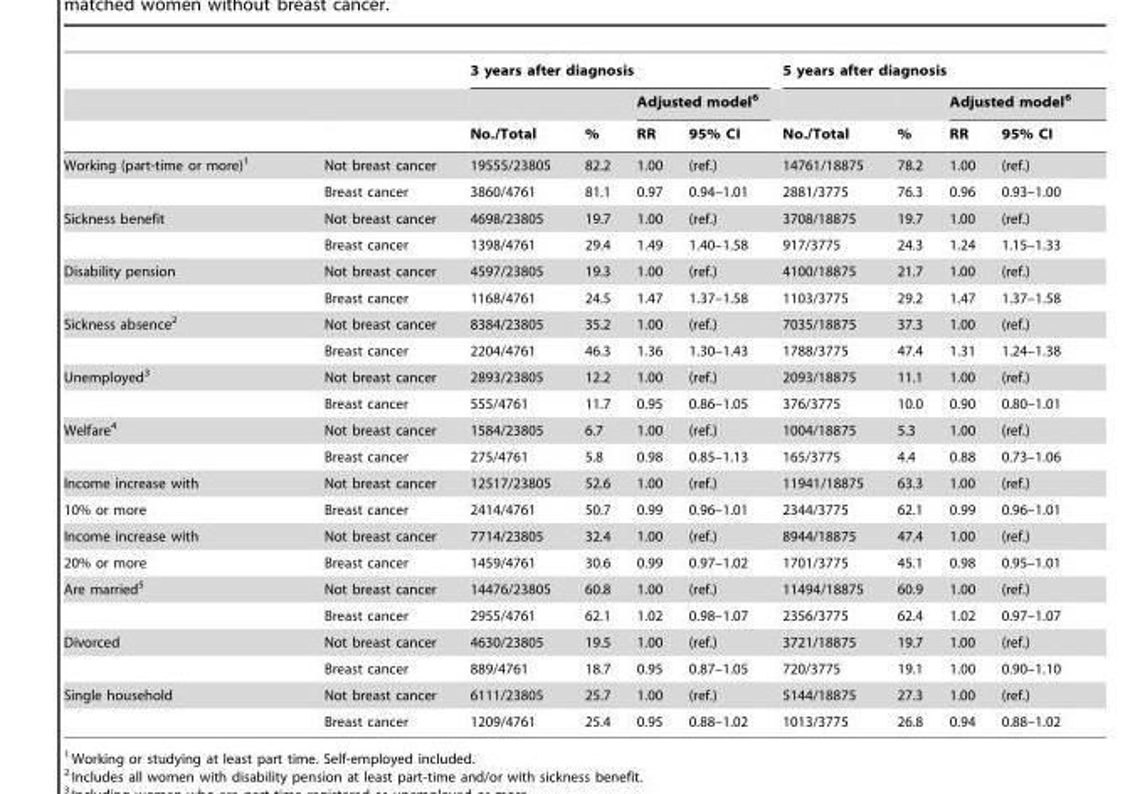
<table><thead><tr><td rowspan="3"></td><td rowspan="3"></td><td colspan="4">3 years after diagnosis</td><td colspan="4">5 years after diagnosis</td></tr><tr><td rowspan="2">No./Total</td><td rowspan="2">%</td><td colspan="2">Adjusted model<sup>6</sup></td><td rowspan="2">No./Total</td><td rowspan="2">%</td><td colspan="2">Adjusted model<sup>6</sup></td></tr><tr><td>RR</td><td>95% CI</td><td>RR</td><td>95% CI</td></tr></thead><tbody><tr><td rowspan="2">Working (part-time or more)<sup>1</sup></td><td>Not breast cancer</td><td>19555/23805</td><td>82.2</td><td>1.00</td><td>(ref.)</td><td>14761/18875</td><td>78.2</td><td>1.00</td><td>(ref.)</td></tr><tr><td>Breast cancer</td><td>3860/4761</td><td>81.1</td><td>0.97</td><td>0.94–1.01</td><td>2881/3775</td><td>76.3</td><td>0.96</td><td>0.93–1.00</td></tr><tr><td rowspan="2">Sickness benefit</td><td>Not breast cancer</td><td>4698/23805</td><td>19.7</td><td>1.00</td><td>(ref.)</td><td>3708/18875</td><td>19.7</td><td>1.00</td><td>(ref.)</td></tr><tr><td>Breast cancer</td><td>1398/4761</td><td>29.4</td><td>1.49</td><td>1.40–1.58</td><td>917/3775</td><td>24.3</td><td>1.24</td><td>1.15–1.33</td></tr><tr><td rowspan="2">Disability pension</td><td>Not breast cancer</td><td>4597/23805</td><td>19.3</td><td>1.00</td><td>(ref.)</td><td>4100/18875</td><td>21.7</td><td>1.00</td><td>(ref.)</td></tr><tr><td>Breast cancer</td><td>1168/4761</td><td>24.5</td><td>1.47</td><td>1.37–1.58</td><td>1103/3775</td><td>29.2</td><td>1.47</td><td>1.37–1.58</td></tr><tr><td rowspan="2">Sickness absence<sup>2</sup></td><td>Not breast cancer</td><td>8384/23805</td><td>35.2</td><td>1.00</td><td>(ref.)</td><td>7035/18875</td><td>37.3</td><td>1.00</td><td>(ref.)</td></tr><tr><td>Breast cancer</td><td>2204/4761</td><td>46.3</td><td>1.36</td><td>1.30–1.43</td><td>1788/3775</td><td>47.4</td><td>1.31</td><td>1.24–1.38</td></tr><tr><td rowspan="2">Unemployed<sup>3</sup></td><td>Not breast cancer</td><td>2893/23805</td><td>12.2</td><td>1.00</td><td>(ref.)</td><td>2093/18875</td><td>11.1</td><td>1.00</td><td>(ref.)</td></tr><tr><td>Breast cancer</td><td>555/4761</td><td>11.7</td><td>0.95</td><td>0.86–1.05</td><td>376/3775</td><td>10.0</td><td>0.90</td><td>0.80–1.01</td></tr><tr><td rowspan="2">Welfare<sup>4</sup></td><td>Not breast cancer</td><td>1584/23805</td><td>6.7</td><td>1.00</td><td>(ref.)</td><td>1004/18875</td><td>5.3</td><td>1.00</td><td>(ref.)</td></tr><tr><td>Breast cancer</td><td>275/4761</td><td>5.8</td><td>0.98</td><td>0.85–1.13</td><td>165/3775</td><td>4.4</td><td>0.88</td><td>0.73–1.06</td></tr><tr><td>Income increase with</td><td>Not breast cancer</td><td>12517/23805</td><td>52.6</td><td>1.00</td><td>(ref.)</td><td>11941/18875</td><td>63.3</td><td>1.00</td><td>(ref.)</td></tr><tr><td>10% or more</td><td>Breast cancer</td><td>2414/4761</td><td>50.7</td><td>0.99</td><td>0.96–1.01</td><td>2344/3775</td><td>62.1</td><td>0.99</td><td>0.96–1.01</td></tr><tr><td>Income increase with</td><td>Not breast cancer</td><td>7714/23805</td><td>32.4</td><td>1.00</td><td>(ref.)</td><td>8944/18875</td><td>47.4</td><td>1.00</td><td>(ref.)</td></tr><tr><td>20% or more</td><td>Breast cancer</td><td>1459/4761</td><td>30.6</td><td>0.99</td><td>0.97–1.02</td><td>1701/3775</td><td>45.1</td><td>0.98</td><td>0.95–1.01</td></tr><tr><td rowspan="2">Are married<sup>5</sup></td><td>Not breast cancer</td><td>14476/23805</td><td>60.8</td><td>1.00</td><td>(ref.)</td><td>11494/18875</td><td>60.9</td><td>1.00</td><td>(ref.)</td></tr><tr><td>Breast cancer</td><td>2955/4761</td><td>62.1</td><td>1.02</td><td>0.98–1.07</td><td>2356/3775</td><td>62.4</td><td>1.02</td><td>0.97–1.07</td></tr><tr><td rowspan="2">Divorced</td><td>Not breast cancer</td><td>4630/23805</td><td>19.5</td><td>1.00</td><td>(ref.)</td><td>3721/18875</td><td>19.7</td><td>1.00</td><td>(ref.)</td></tr><tr><td>Breast cancer</td><td>889/4761</td><td>18.7</td><td>0.95</td><td>0.87–1.05</td><td>720/3775</td><td>19.1</td><td>1.00</td><td>0.90–1.10</td></tr><tr><td rowspan="2">Single household</td><td>Not breast cancer</td><td>6111/23805</td><td>25.7</td><td>1.00</td><td>(ref.)</td><td>5144/18875</td><td>27.3</td><td>1.00</td><td>(ref.)</td></tr><tr><td>Breast cancer</td><td>1209/4761</td><td>25.4</td><td>0.95</td><td>0.88–1.02</td><td>1013/3775</td><td>26.8</td><td>0.94</td><td>0.88–1.02</td></tr></tbody></table>